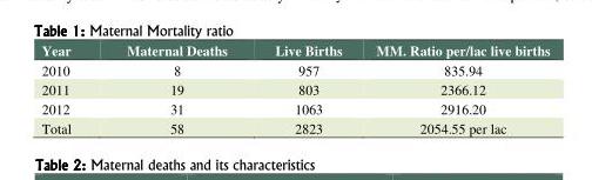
<table><thead><tr><td>Year</td><td>Maternal Deaths</td><td>Live Births</td><td>MM. Ratio per/lac live births</td></tr></thead><tbody><tr><td>2010</td><td>8</td><td>957</td><td>835.94</td></tr><tr><td>2011</td><td>19</td><td>803</td><td>2366.12</td></tr><tr><td>2012</td><td>31</td><td>1063</td><td>2916.20</td></tr><tr><td>Total</td><td>58</td><td>2823</td><td>2054.55 per lac</td></tr></tbody></table>